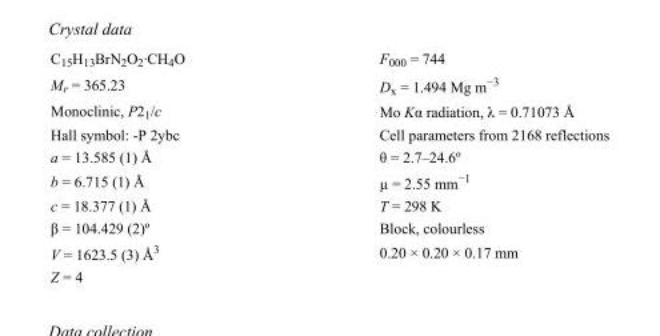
<table><tbody><tr><td>C<sub>15</sub>H<sub>13</sub>BrN<sub>2</sub>O<sub>2</sub>·CH<sub>4</sub>O</td><td>F000 = 744</td></tr><tr><td>M<sub>r</sub> = 365.23</td><td>D<sub>x</sub> = 1.494 Mg m<sup>−3</sup></td></tr><tr><td>Monoclinic, P2<sub>1</sub>/c</td><td>Mo Kα radiation, λ = 0.71073 Å</td></tr><tr><td>Hall symbol: -P 2ybc</td><td>Cell parameters from 2168 reflections</td></tr><tr><td>a = 13.585 (1) Å</td><td>θ = 2.7–24.6º</td></tr><tr><td>b = 6.715 (1) Å</td><td>µ = 2.55 mm<sup>−1</sup></td></tr><tr><td>c = 18.377 (1) Å</td><td>T = 298 K</td></tr><tr><td>β = 104.429 (2)º</td><td>Block, colourless</td></tr><tr><td>V = 1623.5 (3) Å<sup>3</sup></td><td>0.20 × 0.20 × 0.17 mm</td></tr><tr><td>Z = 4</td><td></td></tr></tbody></table>